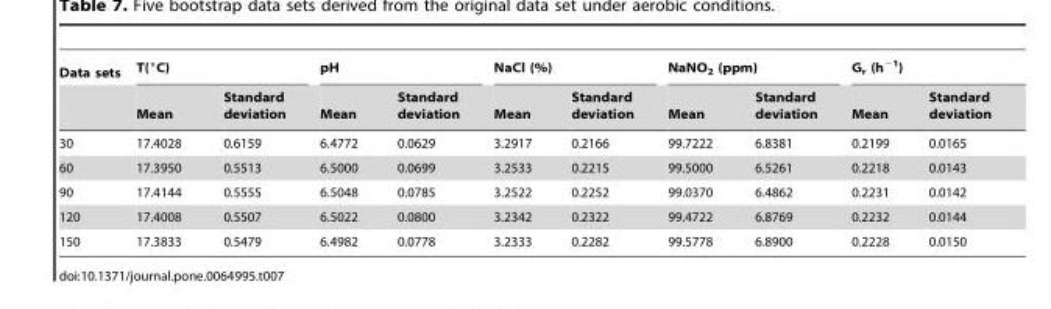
<table><thead><tr><td rowspan="2">Data sets</td><td colspan="2">T(°C)</td><td colspan="2">pH</td><td colspan="2">NaCl (%)</td><td colspan="2">NaNO<sub>2</sub> (ppm)</td><td colspan="2">G<sub>r</sub> (h<sup>−1</sup>)</td></tr><tr><td>Mean</td><td>Standard deviation</td><td>Mean</td><td>Standard deviation</td><td>Mean</td><td>Standard deviation</td><td>Mean</td><td>Standard deviation</td><td>Mean</td><td>Standard deviation</td></tr></thead><tbody><tr><td>30</td><td>17.4028</td><td>0.6159</td><td>6.4772</td><td>0.0629</td><td>3.2917</td><td>0.2166</td><td>99.7222</td><td>6.8381</td><td>0.2199</td><td>0.0165</td></tr><tr><td>60</td><td>17.3950</td><td>0.5513</td><td>6.5000</td><td>0.0699</td><td>3.2533</td><td>0.2215</td><td>99.5000</td><td>6.5261</td><td>0.2218</td><td>0.0143</td></tr><tr><td>90</td><td>17.4144</td><td>0.5555</td><td>6.5048</td><td>0.0785</td><td>3.2522</td><td>0.2252</td><td>99.0370</td><td>6.4862</td><td>0.2231</td><td>0.0142</td></tr><tr><td>120</td><td>17.4008</td><td>0.5507</td><td>6.5022</td><td>0.0800</td><td>3.2342</td><td>0.2322</td><td>99.4722</td><td>6.8769</td><td>0.2232</td><td>0.0144</td></tr><tr><td>150</td><td>17.3833</td><td>0.5479</td><td>6.4982</td><td>0.0778</td><td>3.2333</td><td>0.2282</td><td>99.5778</td><td>6.8900</td><td>0.2228</td><td>0.0150</td></tr></tbody></table>